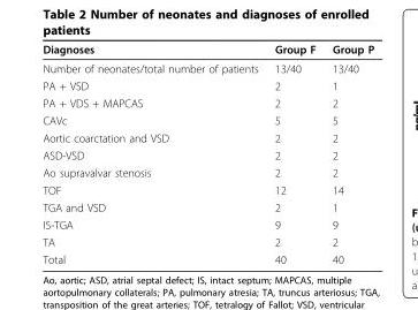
<table><thead><tr><td>Diagnoses</td><td>Group F</td><td>Group P</td></tr></thead><tbody><tr><td>Number of neonates/total number of patients</td><td>13/40</td><td>13/40</td></tr><tr><td>PA + VSD</td><td>2</td><td>1</td></tr><tr><td>PA + VDS + MAPCAS</td><td>2</td><td>2</td></tr><tr><td>CAVc</td><td>5</td><td>5</td></tr><tr><td>Aortic coarctation and VSD</td><td>2</td><td>2</td></tr><tr><td>ASD-VSD</td><td>2</td><td>2</td></tr><tr><td>Ao supravalvar stenosis</td><td>2</td><td>2</td></tr><tr><td>TOF</td><td>12</td><td>14</td></tr><tr><td>TGA and VSD</td><td>2</td><td>1</td></tr><tr><td>IS-TGA</td><td>9</td><td>9</td></tr><tr><td>TA</td><td>2</td><td>2</td></tr><tr><td>Total</td><td>40</td><td>40</td></tr></tbody></table>